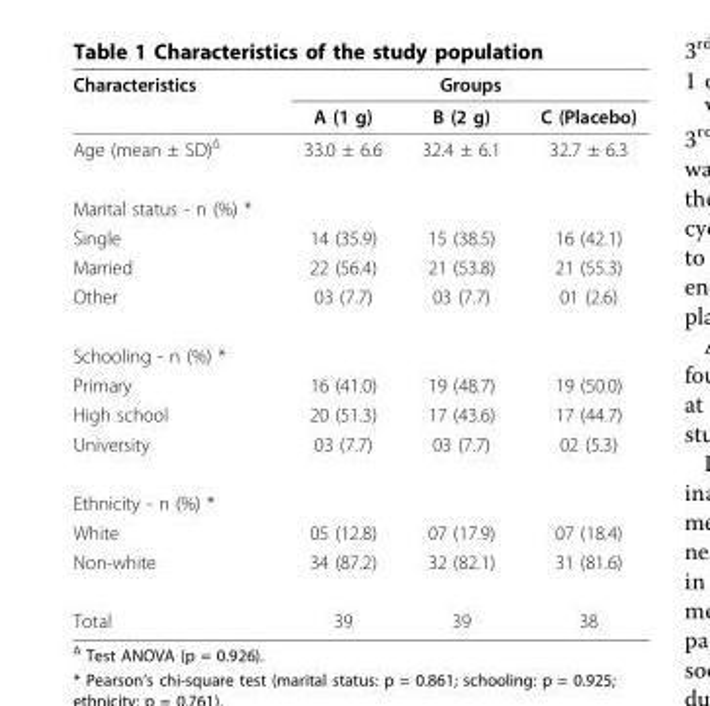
<table><thead><tr><td rowspan="2">Characteristics</td><td colspan="3">Groups</td></tr><tr><td>A (1 g)</td><td>B (2 g)</td><td>C (Placebo)</td></tr></thead><tbody><tr><td>Age (mean ± SD)<sup>Δ</sup></td><td>33.0 ± 6.6</td><td>32.4 ± 6.1</td><td>32.7 ± 6.3</td></tr><tr><td colspan="4">Marital status - n (%) *</td></tr><tr><td>Single</td><td>14 (35.9)</td><td>15 (38.5)</td><td>16 (42.1)</td></tr><tr><td>Married</td><td>22 (56.4)</td><td>21 (53.8)</td><td>21 (55.3)</td></tr><tr><td>Other</td><td>03 (7.7)</td><td>03 (7.7)</td><td>01 (2.6)</td></tr><tr><td colspan="4">Schooling - n (%) *</td></tr><tr><td>Primary</td><td>16 (41.0)</td><td>19 (48.7)</td><td>19 (50.0)</td></tr><tr><td>High school</td><td>20 (51.3)</td><td>17 (43.6)</td><td>17 (44.7)</td></tr><tr><td>University</td><td>03 (7.7)</td><td>03 (7.7)</td><td>02 (5.3)</td></tr><tr><td colspan="4">Ethnicity - n (%) *</td></tr><tr><td>White</td><td>05 (12.8)</td><td>07 (17.9)</td><td>07 (18.4)</td></tr><tr><td>Non-white</td><td>34 (87.2)</td><td>32 (82.1)</td><td>31 (81.6)</td></tr><tr><td>Total</td><td>39</td><td>39</td><td>38</td></tr></tbody></table>